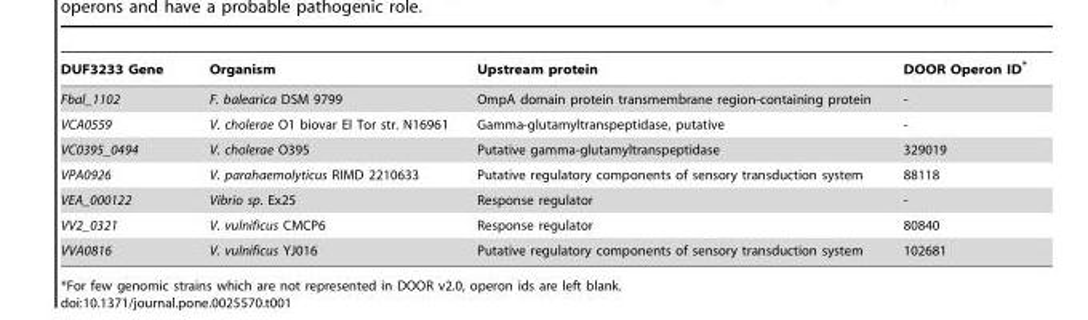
<table><thead><tr><td>DUF3233 Gene</td><td>Organism</td><td>Upstream protein</td><td>DOOR Operon ID*</td></tr></thead><tbody><tr><td>Fbal_1102</td><td>F. balearica DSM 9799</td><td>OmpA domain protein transmembrane region-containing protein</td><td>-</td></tr><tr><td>VCA0559</td><td>V. cholerae O1 biovar El Tor str. N16961</td><td>Gamma-glutamyltranspeptidase, putative</td><td>-</td></tr><tr><td>VC0395_0494</td><td>V. cholerae O395</td><td>Putative gamma-glutamyltranspeptidase</td><td>329019</td></tr><tr><td>VPA0926</td><td>V. parahaemolyticus RIMD 2210633</td><td>Putative regulatory components of sensory transduction system</td><td>88118</td></tr><tr><td>VEA_000122</td><td>Vibrio sp. Ex25</td><td>Response regulator</td><td>-</td></tr><tr><td>VV2_0321</td><td>V. vulnificus CMCP6</td><td>Response regulator</td><td>80840</td></tr><tr><td>VVA0816</td><td>V. vulnificus YJ016</td><td>Putative regulatory components of sensory transduction system</td><td>102681</td></tr></tbody></table>